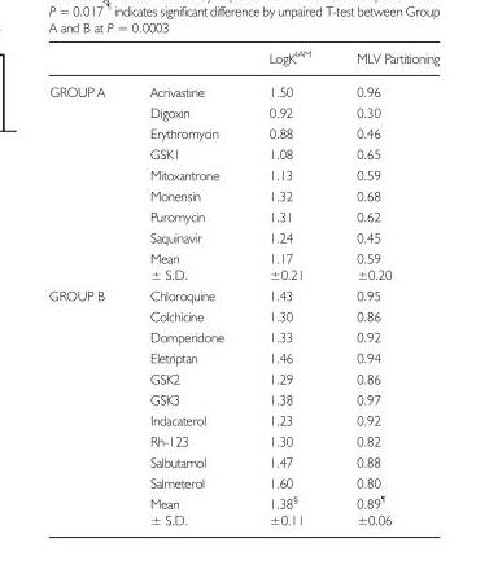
<table><thead><tr><td></td><td></td><td>LogK<sup>IAM</sup></td><td>MLV Partitioning</td></tr></thead><tbody><tr><td rowspan="9">GROUP A</td><td>Acrivastine</td><td>1.50</td><td>0.96</td></tr><tr><td>Digoxin</td><td>0.92</td><td>0.30</td></tr><tr><td>Erythromycin</td><td>0.88</td><td>0.46</td></tr><tr><td>GSK1</td><td>1.08</td><td>0.65</td></tr><tr><td>Mitoxantrone</td><td>1.13</td><td>0.59</td></tr><tr><td>Monensin</td><td>1.32</td><td>0.68</td></tr><tr><td>Puromycin</td><td>1.31</td><td>0.62</td></tr><tr><td>Saquinavir</td><td>1.24</td><td>0.45</td></tr><tr><td>Mean ± S.D.</td><td>1.17 ±0.21</td><td>0.59 ±0.20</td></tr><tr><td rowspan="11">GROUP B</td><td>Chloroquine</td><td>1.43</td><td>0.95</td></tr><tr><td>Colchicine</td><td>1.30</td><td>0.86</td></tr><tr><td>Domperidone</td><td>1.33</td><td>0.92</td></tr><tr><td>Eletriptan</td><td>1.46</td><td>0.94</td></tr><tr><td>GSK2</td><td>1.29</td><td>0.86</td></tr><tr><td>GSK3</td><td>1.38</td><td>0.97</td></tr><tr><td>Indacaterol</td><td>1.23</td><td>0.92</td></tr><tr><td>Rh-123</td><td>1.30</td><td>0.82</td></tr><tr><td>Salbutamol</td><td>1.47</td><td>0.88</td></tr><tr><td>Salmeterol</td><td>1.60</td><td>0.80</td></tr><tr><td>Mean ± S.D.</td><td>1.38<sup>§</sup> ±0.11</td><td>0.89<sup>¶</sup> ±0.06</td></tr></tbody></table>